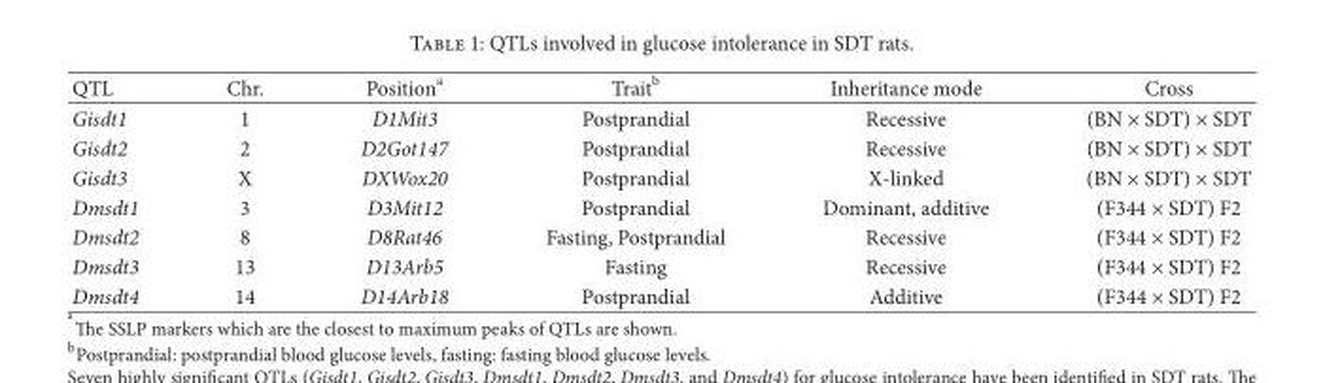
<table><thead><tr><td>QTL</td><td>Chr.</td><td>Position<sup>a</sup></td><td>Trait<sup>b</sup></td><td>Inheritance mode</td><td>Cross</td></tr></thead><tbody><tr><td>Gisdt1</td><td>1</td><td>D1Mit3</td><td>Postprandial</td><td>Recessive</td><td>(BN × SDT) × SDT</td></tr><tr><td>Gisdt2</td><td>2</td><td>D2Got147</td><td>Postprandial</td><td>Recessive</td><td>(BN × SDT) × SDT</td></tr><tr><td>Gisdt3</td><td>X</td><td>DXWox20</td><td>Postprandial</td><td>X-linked</td><td>(BN × SDT) × SDT</td></tr><tr><td>Dmsdt1</td><td>3</td><td>D3Mit12</td><td>Postprandial</td><td>Dominant, additive</td><td>(F344 × SDT) F2</td></tr><tr><td>Dmsdt2</td><td>8</td><td>D8Rat46</td><td>Fasting, Postprandial</td><td>Recessive</td><td>(F344 × SDT) F2</td></tr><tr><td>Dmsdt3</td><td>13</td><td>D13Arb5</td><td>Fasting</td><td>Recessive</td><td>(F344 × SDT) F2</td></tr><tr><td>Dmsdt4</td><td>14</td><td>D14Arb18</td><td>Postprandial</td><td>Additive</td><td>(F344 × SDT) F2</td></tr></tbody></table>